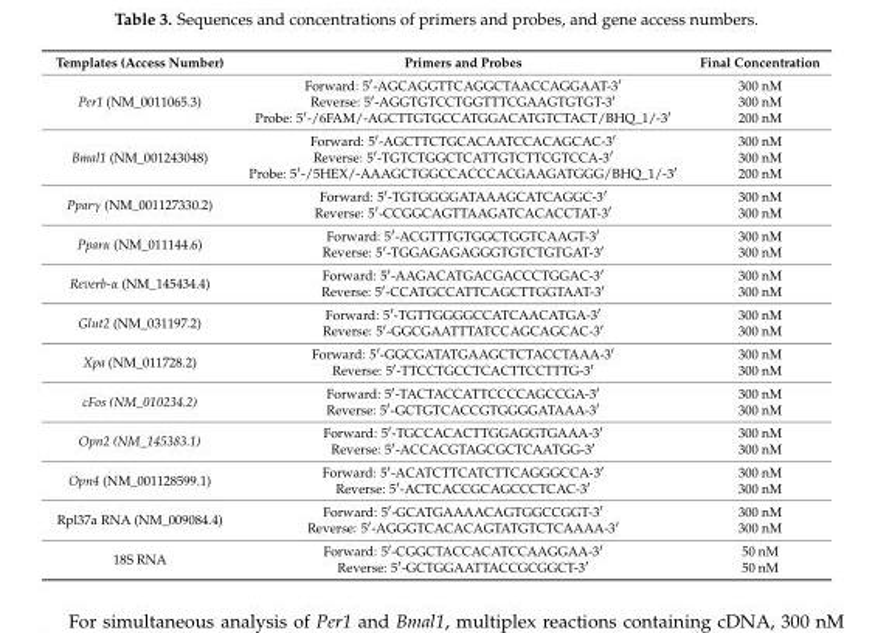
<table><thead><tr><td>Templates (Access Number)</td><td>Primers and Probes</td><td>Final Concentration</td></tr></thead><tbody><tr><td>Per1 (NM_0011065.3)</td><td>Forward: 5′-AGCAGGTTCAGGCTAACCAGGAAT-3′ Reverse: 5′-AGGTGTCCTGGTTTCGAAGTGTGT-3′ Probe: 5′-/6FAM/-AGCTTGTGCCATGGACATGTCTACT/BHQ_1/-3′</td><td>300 nM 300 nM 200 nM</td></tr><tr><td>Bmal1 (NM_001243048)</td><td>Forward: 5′-AGCTTCTGCACAATCCACAGCAC-3′ Reverse: 5′-TGTCTGGCTCATTGTCTTCGTCCA-3′ Probe: 5′-/5HEX/-AAAGCTGGCCACCCACGAAGATGGG/BHQ_1/-3′</td><td>300 nM 300 nM 200 nM</td></tr><tr><td>Pparγ (NM_001127330.2)</td><td>Forward: 5′-TGTGGGGATAAAGCATCAGGC-3′ Reverse: 5′-CCGGCAGTTAAGATCACACCTAT-3′</td><td>300 nM 300 nM</td></tr><tr><td>Pparα (NM_011144.6)</td><td>Forward: 5′-ACGTTTGTGGCTGGTCAAGT-3′ Reverse: 5′-TGGAGAGAGGGTGTCTGTGAT-3′</td><td>300 nM 300 nM</td></tr><tr><td>Reverb-α (NM_145434.4)</td><td>Forward: 5′-AAGACATGACGACCCTGGAC-3′ Reverse: 5′-CCATGCCATTCAGCTTGGTAAT-3′</td><td>300 nM 300 nM</td></tr><tr><td>Glut2 (NM_031197.2)</td><td>Forward: 5′-TGTTGGGGCCATCAACATGA-3′ Reverse: 5′-GGCGAATTTATCCAGCAGCAC-3′</td><td>300 nM 300 nM</td></tr><tr><td>Xpa (NM_011728.2)</td><td>Forward: 5′-GGCGATATGAAGCTCTACCTAAA-3′ Reverse: 5′-TTCCTGCCTCACTTCCTTTG-3′</td><td>300 nM 300 nM</td></tr><tr><td>cFos (NM_010234.2)</td><td>Forward: 5′-TACTACCATTCCCCAGCCGA-3′ Reverse: 5′-GCTGTCACCGTGGGGATAAA-3′</td><td>300 nM 300 nM</td></tr><tr><td>Opn2 (NM_145383.1)</td><td>Forward: 5′-TGCCACACTTGGAGGTGAAA-3′ Reverse: 5′-ACCACGTAGCGCTCAATGG-3′</td><td>300 nM 300 nM</td></tr><tr><td>Opn4 (NM_001128599.1)</td><td>Forward: 5′-ACATCTTCATCTTCAGGGCCA-3′ Reverse: 5′-ACTCACCGCAGCCCTCAC-3′</td><td>300 nM 300 nM</td></tr><tr><td>Rpl37a RNA (NM_009084.4)</td><td>Forward: 5′-GCATGAAAACAGTGGCCGGT-3′ Reverse: 5′-AGGGTCACACAGTATGTCTCAAAA-3′</td><td>300 nM 300 nM</td></tr><tr><td>18S RNA</td><td>Forward: 5′-CGGCTACCACATCCAAGGAA-3′ Reverse: 5′-GCTGGAATTACCGCGGCT-3′</td><td>50 nM 50 nM</td></tr></tbody></table>